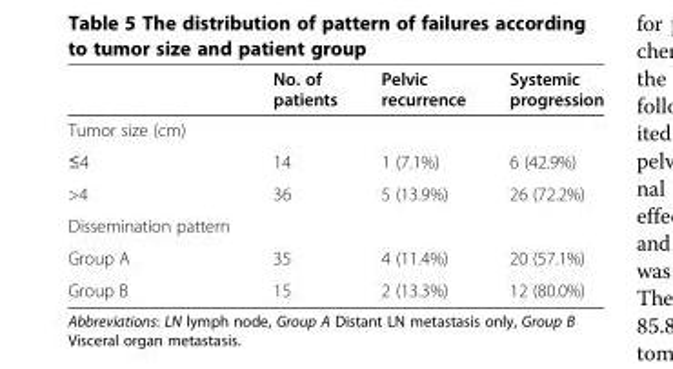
<table><thead><tr><td></td><td>No. of patients</td><td>Pelvic recurrence</td><td>Systemic progression</td></tr></thead><tbody><tr><td colspan="4">Tumor size (cm)</td></tr><tr><td>≤4</td><td>14</td><td>1 (7.1%)</td><td>6 (42.9%)</td></tr><tr><td>&gt;4</td><td>36</td><td>5 (13.9%)</td><td>26 (72.2%)</td></tr><tr><td colspan="4">Dissemination pattern</td></tr><tr><td>Group A</td><td>35</td><td>4 (11.4%)</td><td>20 (57.1%)</td></tr><tr><td>Group B</td><td>15</td><td>2 (13.3%)</td><td>12 (80.0%)</td></tr></tbody></table>